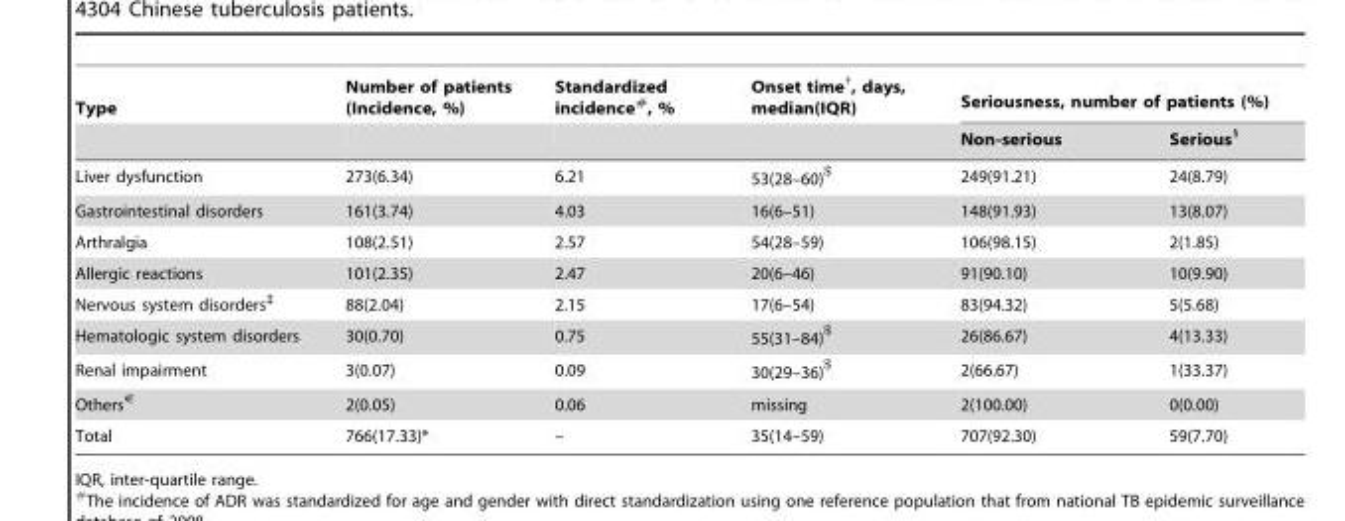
<table><thead><tr><td rowspan="2">Type</td><td rowspan="2">Number of patients (Incidence, %)</td><td rowspan="2">Standardized incidence#, %</td><td rowspan="2">Onset time†, days, median(IQR)</td><td colspan="2">Seriousness, number of patients (%)</td></tr><tr><td>Non-serious</td><td>Serious§</td></tr></thead><tbody><tr><td>Liver dysfunction</td><td>273(6.34)</td><td>6.21</td><td>53(28–60)$</td><td>249(91.21)</td><td>24(8.79)</td></tr><tr><td>Gastrointestinal disorders</td><td>161(3.74)</td><td>4.03</td><td>16(6–51)</td><td>148(91.93)</td><td>13(8.07)</td></tr><tr><td>Arthralgia</td><td>108(2.51)</td><td>2.57</td><td>54(28–59)</td><td>106(98.15)</td><td>2(1.85)</td></tr><tr><td>Allergic reactions</td><td>101(2.35)</td><td>2.47</td><td>20(6–46)</td><td>91(90.10)</td><td>10(9.90)</td></tr><tr><td>Nervous system disorders‡</td><td>88(2.04)</td><td>2.15</td><td>17(6–54)</td><td>83(94.32)</td><td>5(5.68)</td></tr><tr><td>Hematologic system disorders</td><td>30(0.70)</td><td>0.75</td><td>55(31–84)$</td><td>26(86.67)</td><td>4(13.33)</td></tr><tr><td>Renal impairment</td><td>3(0.07)</td><td>0.09</td><td>30(29–36)$</td><td>2(66.67)</td><td>1(33.37)</td></tr><tr><td>Others<sup>€</sup></td><td>2(0.05)</td><td>0.06</td><td>missing</td><td>2(100.00)</td><td>0(0.00)</td></tr><tr><td>Total</td><td>766(17.33)*</td><td>–</td><td>35(14–59)</td><td>707(92.30)</td><td>59(7.70)</td></tr></tbody></table>